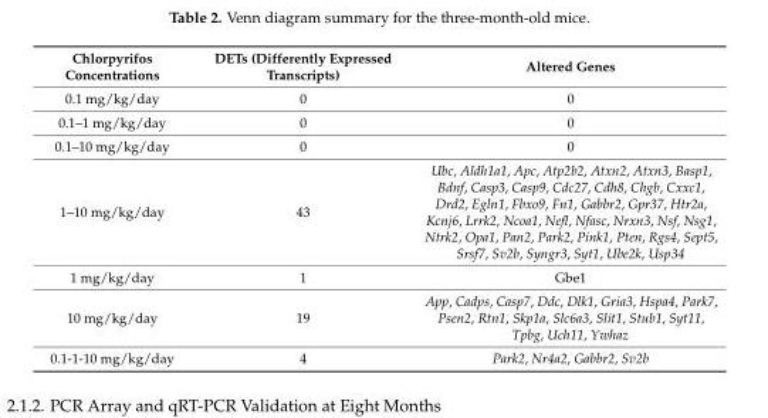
<table><thead><tr><td>Chlorpyrifos Concentrations</td><td>DETs (Differently Expressed Transcripts)</td><td>Altered Genes</td></tr></thead><tbody><tr><td>0.1 mg/kg/day</td><td>0</td><td>0</td></tr><tr><td>0.1–1 mg/kg/day</td><td>0</td><td>0</td></tr><tr><td>0.1–10 mg/kg/day</td><td>0</td><td>0</td></tr><tr><td>1–10 mg/kg/day</td><td>43</td><td>Ubc, Aldh1a1, Apc, Atp2b2, Atxn2, Atxn3, Basp1, Bdnf, Casp3, Casp9, Cdc27, Cdh8, Chgb, Cxxc1, Drd2, Egln1, Fbxo9, Fn1, Gabbr2, Gpr37, Htr2a, Kcnj6, Lrrk2, Ncoa1, Nefl, Nfasc, Nrxn3, Nsf, Nsg1, Ntrk2, Opa1, Pan2, Park2, Pink1, Pten, Rgs4, Sept5, Srsf7, Sv2b, Syngr3, Syt1, Ube2k, Usp34</td></tr><tr><td>1 mg/kg/day</td><td>1</td><td>Gbe1</td></tr><tr><td>10 mg/kg/day</td><td>19</td><td>App, Cadps, Casp7, Ddc, Dlk1, Gria3, Hspa4, Park7, Psen2, Rtn1, Skp1a, Slc6a3, Slit1, Stub1, Syt11, Tpbg, Uch11, Ywhaz</td></tr><tr><td>0.1-1-10 mg/kg/day</td><td>4</td><td>Park2, Nr4a2, Gabbr2, Sv2b</td></tr></tbody></table>